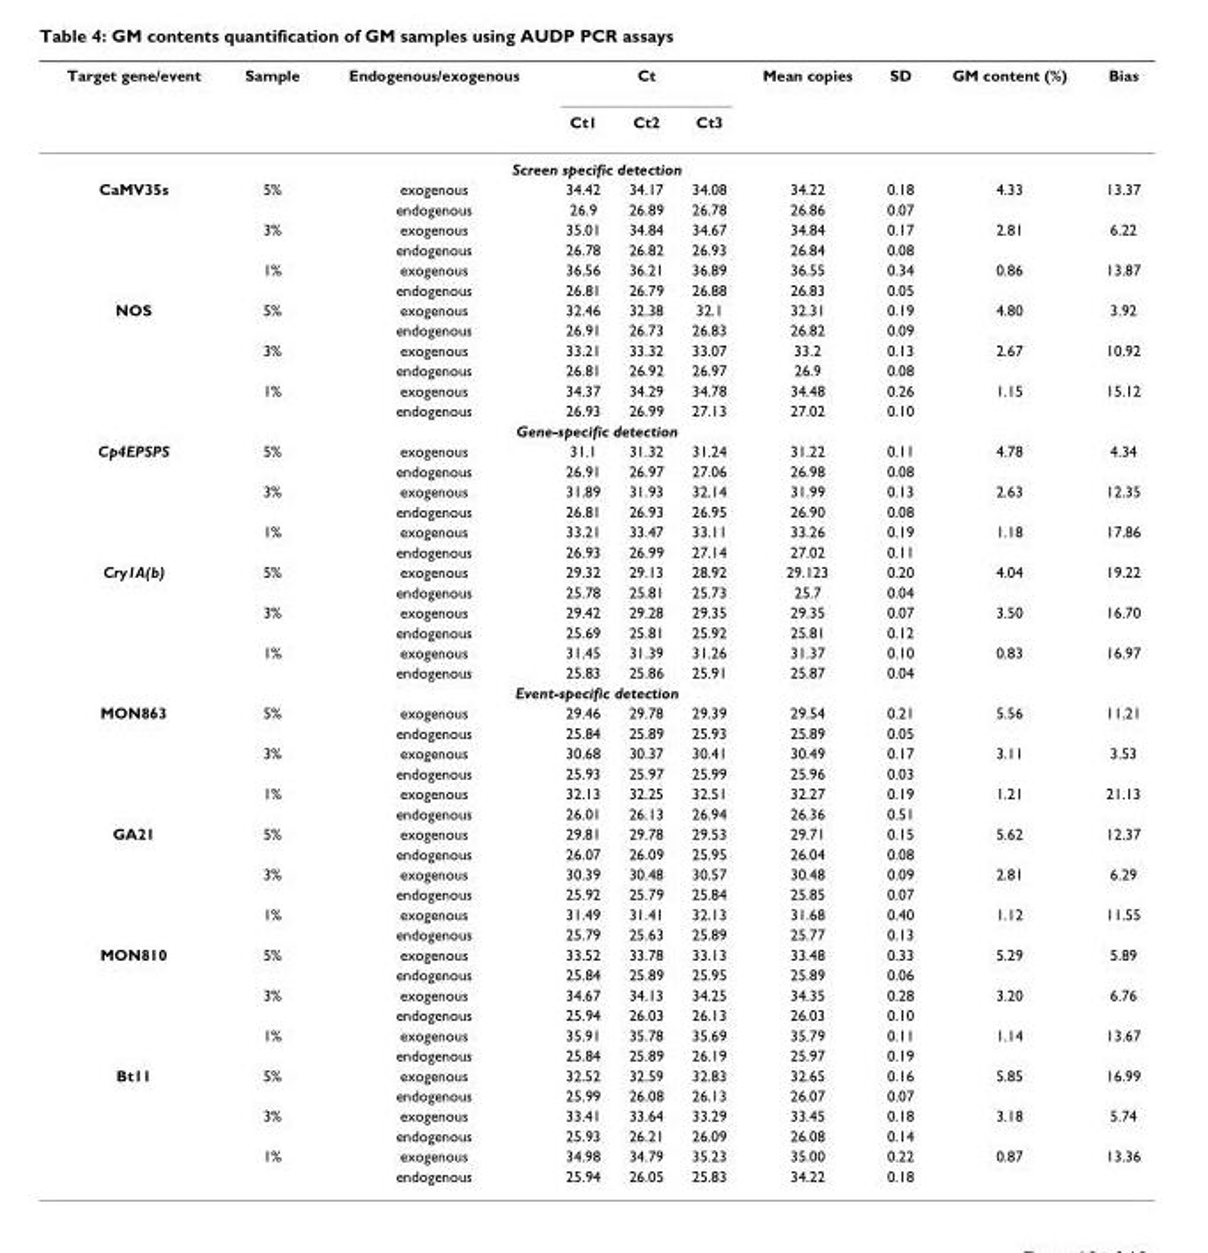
<table><thead><tr><td rowspan="2">Target gene/event</td><td rowspan="2">Sample</td><td rowspan="2">Endogenous/exogenous</td><td colspan="3">Ct</td><td rowspan="2">Mean copies</td><td rowspan="2">SD</td><td rowspan="2">GM content (%)</td><td rowspan="2">Bias</td></tr><tr><td>Ct1</td><td>Ct2</td><td>Ct3</td></tr></thead><tbody><tr><td colspan="10">Screen specific detection</td></tr><tr><td rowspan="6">CaMV35s</td><td>5%</td><td>exogenous</td><td>34.42</td><td>34.17</td><td>34.08</td><td>34.22</td><td>0.18</td><td>4.33</td><td>13.37</td></tr><tr><td></td><td>endogenous</td><td>26.9</td><td>26.89</td><td>26.78</td><td>26.86</td><td>0.07</td><td></td><td></td></tr><tr><td>3%</td><td>exogenous</td><td>35.01</td><td>34.84</td><td>34.67</td><td>34.84</td><td>0.17</td><td>2.81</td><td>6.22</td></tr><tr><td></td><td>endogenous</td><td>26.78</td><td>26.82</td><td>26.93</td><td>26.84</td><td>0.08</td><td></td><td></td></tr><tr><td>1%</td><td>exogenous</td><td>36.56</td><td>36.21</td><td>36.89</td><td>36.55</td><td>0.34</td><td>0.86</td><td>13.87</td></tr><tr><td></td><td>endogenous</td><td>26.81</td><td>26.79</td><td>26.88</td><td>26.83</td><td>0.05</td><td></td><td></td></tr><tr><td rowspan="6">NOS</td><td>5%</td><td>exogenous</td><td>32.46</td><td>32.38</td><td>32.1</td><td>32.31</td><td>0.19</td><td>4.80</td><td>3.92</td></tr><tr><td></td><td>endogenous</td><td>26.91</td><td>26.73</td><td>26.83</td><td>26.82</td><td>0.09</td><td></td><td></td></tr><tr><td>3%</td><td>exogenous</td><td>33.21</td><td>33.32</td><td>33.07</td><td>33.2</td><td>0.13</td><td>2.67</td><td>10.92</td></tr><tr><td></td><td>endogenous</td><td>26.81</td><td>26.92</td><td>26.97</td><td>26.9</td><td>0.08</td><td></td><td></td></tr><tr><td>1%</td><td>exogenous</td><td>34.37</td><td>34.29</td><td>34.78</td><td>34.48</td><td>0.26</td><td>1.15</td><td>15.12</td></tr><tr><td></td><td>endogenous</td><td>26.93</td><td>26.99</td><td>27.13</td><td>27.02</td><td>0.10</td><td></td><td></td></tr><tr><td colspan="10">Gene-specific detection</td></tr><tr><td rowspan="6">Cp4EPSPS</td><td>5%</td><td>exogenous</td><td>31.1</td><td>31.32</td><td>31.24</td><td>31.22</td><td>0.11</td><td>4.78</td><td>4.34</td></tr><tr><td></td><td>endogenous</td><td>26.91</td><td>26.97</td><td>27.06</td><td>26.98</td><td>0.08</td><td></td><td></td></tr><tr><td>3%</td><td>exogenous</td><td>31.89</td><td>31.93</td><td>32.14</td><td>31.99</td><td>0.13</td><td>2.63</td><td>12.35</td></tr><tr><td></td><td>endogenous</td><td>26.81</td><td>26.93</td><td>26.95</td><td>26.90</td><td>0.08</td><td></td><td></td></tr><tr><td>1%</td><td>exogenous</td><td>33.21</td><td>33.47</td><td>33.11</td><td>33.26</td><td>0.19</td><td>1.18</td><td>17.86</td></tr><tr><td></td><td>endogenous</td><td>26.93</td><td>26.99</td><td>27.14</td><td>27.02</td><td>0.11</td><td></td><td></td></tr><tr><td rowspan="6">Cry1A(b)</td><td>5%</td><td>exogenous</td><td>29.32</td><td>29.13</td><td>28.92</td><td>29.123</td><td>0.20</td><td>4.04</td><td>19.22</td></tr><tr><td></td><td>endogenous</td><td>25.78</td><td>25.81</td><td>25.73</td><td>25.7</td><td>0.04</td><td></td><td></td></tr><tr><td>3%</td><td>exogenous</td><td>29.42</td><td>29.28</td><td>29.35</td><td>29.35</td><td>0.07</td><td>3.50</td><td>16.70</td></tr><tr><td></td><td>endogenous</td><td>25.69</td><td>25.81</td><td>25.92</td><td>25.81</td><td>0.12</td><td></td><td></td></tr><tr><td>1%</td><td>exogenous</td><td>31.45</td><td>31.39</td><td>31.26</td><td>31.37</td><td>0.10</td><td>0.83</td><td>16.97</td></tr><tr><td></td><td>endogenous</td><td>25.83</td><td>25.86</td><td>25.91</td><td>25.87</td><td>0.04</td><td></td><td></td></tr><tr><td colspan="10">Event-specific detection</td></tr><tr><td rowspan="6">MON863</td><td>5%</td><td>exogenous</td><td>29.46</td><td>29.78</td><td>29.39</td><td>29.54</td><td>0.21</td><td>5.56</td><td>11.21</td></tr><tr><td></td><td>endogenous</td><td>25.84</td><td>25.89</td><td>25.93</td><td>25.89</td><td>0.05</td><td></td><td></td></tr><tr><td>3%</td><td>exogenous</td><td>30.68</td><td>30.37</td><td>30.41</td><td>30.49</td><td>0.17</td><td>3.11</td><td>3.53</td></tr><tr><td></td><td>endogenous</td><td>25.93</td><td>25.97</td><td>25.99</td><td>25.96</td><td>0.03</td><td></td><td></td></tr><tr><td>1%</td><td>exogenous</td><td>32.13</td><td>32.25</td><td>32.51</td><td>32.27</td><td>0.19</td><td>1.21</td><td>21.13</td></tr><tr><td></td><td>endogenous</td><td>26.01</td><td>26.13</td><td>26.94</td><td>26.36</td><td>0.51</td><td></td><td></td></tr><tr><td rowspan="6">GA21</td><td>5%</td><td>exogenous</td><td>29.81</td><td>29.78</td><td>29.53</td><td>29.71</td><td>0.15</td><td>5.62</td><td>12.37</td></tr><tr><td></td><td>endogenous</td><td>26.07</td><td>26.09</td><td>25.95</td><td>26.04</td><td>0.08</td><td></td><td></td></tr><tr><td>3%</td><td>exogenous</td><td>30.39</td><td>30.48</td><td>30.57</td><td>30.48</td><td>0.09</td><td>2.81</td><td>6.29</td></tr><tr><td></td><td>endogenous</td><td>25.92</td><td>25.79</td><td>25.84</td><td>25.85</td><td>0.07</td><td></td><td></td></tr><tr><td>1%</td><td>exogenous</td><td>31.49</td><td>31.41</td><td>32.13</td><td>31.68</td><td>0.40</td><td>1.12</td><td>11.55</td></tr><tr><td></td><td>endogenous</td><td>25.79</td><td>25.63</td><td>25.89</td><td>25.77</td><td>0.13</td><td></td><td></td></tr><tr><td rowspan="6">MON810</td><td>5%</td><td>exogenous</td><td>33.52</td><td>33.78</td><td>33.13</td><td>33.48</td><td>0.33</td><td>5.29</td><td>5.89</td></tr><tr><td></td><td>endogenous</td><td>25.84</td><td>25.89</td><td>25.95</td><td>25.89</td><td>0.06</td><td></td><td></td></tr><tr><td>3%</td><td>exogenous</td><td>34.67</td><td>34.13</td><td>34.25</td><td>34.35</td><td>0.28</td><td>3.20</td><td>6.76</td></tr><tr><td></td><td>endogenous</td><td>25.94</td><td>26.03</td><td>26.13</td><td>26.03</td><td>0.10</td><td></td><td></td></tr><tr><td>1%</td><td>exogenous</td><td>35.91</td><td>35.78</td><td>35.69</td><td>35.79</td><td>0.11</td><td>1.14</td><td>13.67</td></tr><tr><td></td><td>endogenous</td><td>25.84</td><td>25.89</td><td>26.19</td><td>25.97</td><td>0.19</td><td></td><td></td></tr><tr><td rowspan="6">Bt11</td><td>5%</td><td>exogenous</td><td>32.52</td><td>32.59</td><td>32.83</td><td>32.65</td><td>0.16</td><td>5.85</td><td>16.99</td></tr><tr><td></td><td>endogenous</td><td>25.99</td><td>26.08</td><td>26.13</td><td>26.07</td><td>0.07</td><td></td><td></td></tr><tr><td>3%</td><td>exogenous</td><td>33.41</td><td>33.64</td><td>33.29</td><td>33.45</td><td>0.18</td><td>3.18</td><td>5.74</td></tr><tr><td></td><td>endogenous</td><td>25.93</td><td>26.21</td><td>26.09</td><td>26.08</td><td>0.14</td><td></td><td></td></tr><tr><td>1%</td><td>exogenous</td><td>34.98</td><td>34.79</td><td>35.23</td><td>35.00</td><td>0.22</td><td>0.87</td><td>13.36</td></tr><tr><td></td><td>endogenous</td><td>25.94</td><td>26.05</td><td>25.83</td><td>34.22</td><td>0.18</td><td></td><td></td></tr></tbody></table>